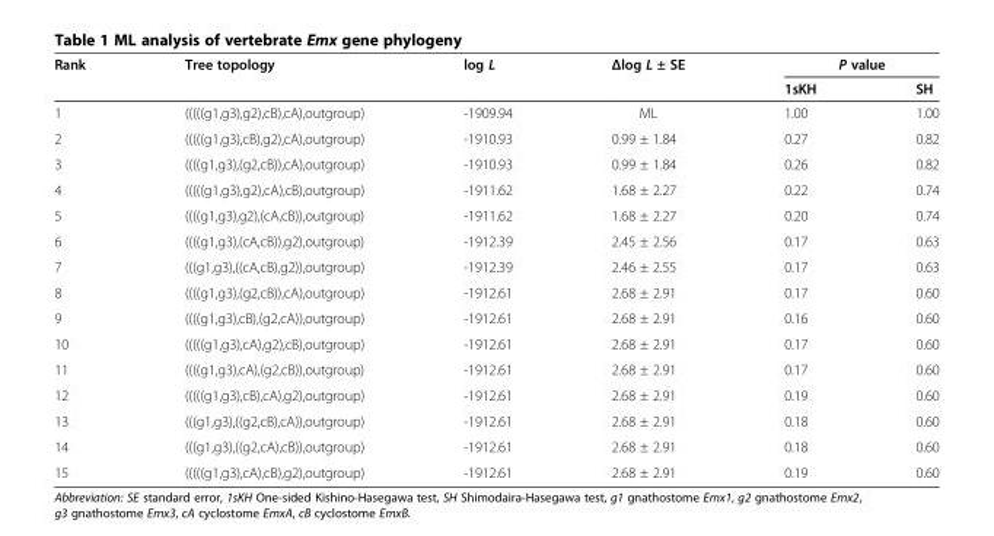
<table><thead><tr><td rowspan="2">Rank</td><td rowspan="2">Tree topology</td><td rowspan="2">log L</td><td rowspan="2">Δlog L ± SE</td><td colspan="2">P value</td></tr><tr><td>1sKH</td><td>SH</td></tr></thead><tbody><tr><td>1</td><td>(((((g1,g3),g2),cB),cA),outgroup)</td><td>-1909.94</td><td>ML</td><td>1.00</td><td>1.00</td></tr><tr><td>2</td><td>(((((g1,g3),cB),g2),cA),outgroup)</td><td>-1910.93</td><td>0.99 ± 1.84</td><td>0.27</td><td>0.82</td></tr><tr><td>3</td><td>((((g1,g3),(g2,cB)),cA),outgroup)</td><td>-1910.93</td><td>0.99 ± 1.84</td><td>0.26</td><td>0.82</td></tr><tr><td>4</td><td>(((((g1,g3),g2),cA),cB),outgroup)</td><td>-1911.62</td><td>1.68 ± 2.27</td><td>0.22</td><td>0.74</td></tr><tr><td>5</td><td>((((g1,g3),g2),(cA,cB)),outgroup)</td><td>-1911.62</td><td>1.68 ± 2.27</td><td>0.20</td><td>0.74</td></tr><tr><td>6</td><td>((((g1,g3),(cA,cB)),g2),outgroup)</td><td>-1912.39</td><td>2.45 ± 2.56</td><td>0.17</td><td>0.63</td></tr><tr><td>7</td><td>(((g1,g3),((cA,cB),g2)),outgroup)</td><td>-1912.39</td><td>2.46 ± 2.55</td><td>0.17</td><td>0.63</td></tr><tr><td>8</td><td>((((g1,g3),(g2,cB)),cA),outgroup)</td><td>-1912.61</td><td>2.68 ± 2.91</td><td>0.17</td><td>0.60</td></tr><tr><td>9</td><td>((((g1,g3),cB),(g2,cA)),outgroup)</td><td>-1912.61</td><td>2.68 ± 2.91</td><td>0.16</td><td>0.60</td></tr><tr><td>10</td><td>(((((g1,g3),cA),g2),cB),outgroup)</td><td>-1912.61</td><td>2.68 ± 2.91</td><td>0.17</td><td>0.60</td></tr><tr><td>11</td><td>((((g1,g3),cA),(g2,cB)),outgroup)</td><td>-1912.61</td><td>2.68 ± 2.91</td><td>0.17</td><td>0.60</td></tr><tr><td>12</td><td>(((((g1,g3),cB),cA),g2),outgroup)</td><td>-1912.61</td><td>2.68 ± 2.91</td><td>0.19</td><td>0.60</td></tr><tr><td>13</td><td>(((g1,g3),((g2,cB),cA)),outgroup)</td><td>-1912.61</td><td>2.68 ± 2.91</td><td>0.18</td><td>0.60</td></tr><tr><td>14</td><td>(((g1,g3),((g2,cA),cB)),outgroup)</td><td>-1912.61</td><td>2.68 ± 2.91</td><td>0.18</td><td>0.60</td></tr><tr><td>15</td><td>(((((g1,g3),cA),cB),g2),outgroup)</td><td>-1912.61</td><td>2.68 ± 2.91</td><td>0.19</td><td>0.60</td></tr></tbody></table>